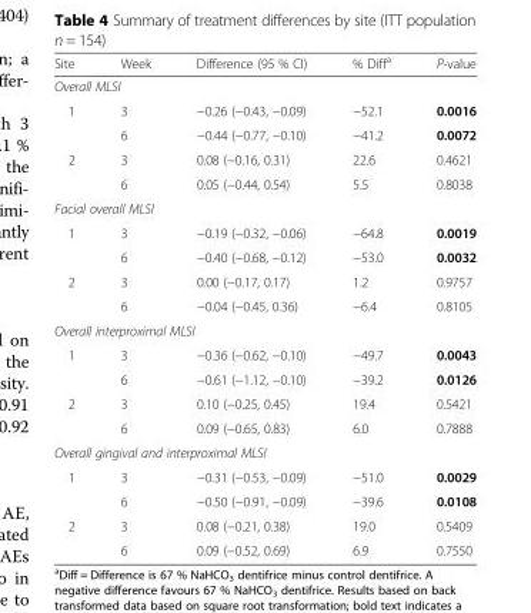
<table><thead><tr><td>Site</td><td>Week</td><td>Difference (95 % CI)</td><td>% Diff<sup>a</sup></td><td>P-value</td></tr></thead><tbody><tr><td colspan="5">Overall MLSI</td></tr><tr><td rowspan="2">1</td><td>3</td><td>−0.26 (−0.43, −0.09)</td><td>−52.1</td><td>0.0016</td></tr><tr><td>6</td><td>−0.44 (−0.77, −0.10)</td><td>−41.2</td><td>0.0072</td></tr><tr><td rowspan="2">2</td><td>3</td><td>0.08 (−0.16, 0.31)</td><td>22.6</td><td>0.4621</td></tr><tr><td>6</td><td>0.05 (−0.44, 0.54)</td><td>5.5</td><td>0.8038</td></tr><tr><td colspan="5">Facial overall MLSI</td></tr><tr><td rowspan="2">1</td><td>3</td><td>−0.19 (−0.32, −0.06)</td><td>−64.8</td><td>0.0019</td></tr><tr><td>6</td><td>−0.40 (−0.68, −0.12)</td><td>−53.0</td><td>0.0032</td></tr><tr><td rowspan="2">2</td><td>3</td><td>0.00 (−0.17, 0.17)</td><td>1.2</td><td>0.9757</td></tr><tr><td>6</td><td>−0.04 (−0.45, 0.36)</td><td>−6.4</td><td>0.8105</td></tr><tr><td colspan="5">Overall interproximal MLSI</td></tr><tr><td rowspan="2">1</td><td>3</td><td>−0.36 (−0.62, −0.10)</td><td>−49.7</td><td>0.0043</td></tr><tr><td>6</td><td>−0.61 (−1.12, −0.10)</td><td>−39.2</td><td>0.0126</td></tr><tr><td rowspan="2">2</td><td>3</td><td>0.10 (−0.25, 0.45)</td><td>19.4</td><td>0.5421</td></tr><tr><td>6</td><td>0.09 (−0.65, 0.83)</td><td>6.0</td><td>0.7888</td></tr><tr><td colspan="5">Overall gingival and interproximal MLSI</td></tr><tr><td rowspan="2">1</td><td>3</td><td>−0.31 (−0.53, −0.09)</td><td>−51.0</td><td>0.0029</td></tr><tr><td>6</td><td>−0.50 (−0.91, −0.09)</td><td>−39.6</td><td>0.0108</td></tr><tr><td rowspan="2">2</td><td>3</td><td>0.08 (−0.21, 0.38)</td><td>19.0</td><td>0.5409</td></tr><tr><td>6</td><td>0.09 (−0.52, 0.69)</td><td>6.9</td><td>0.7550</td></tr></tbody></table>